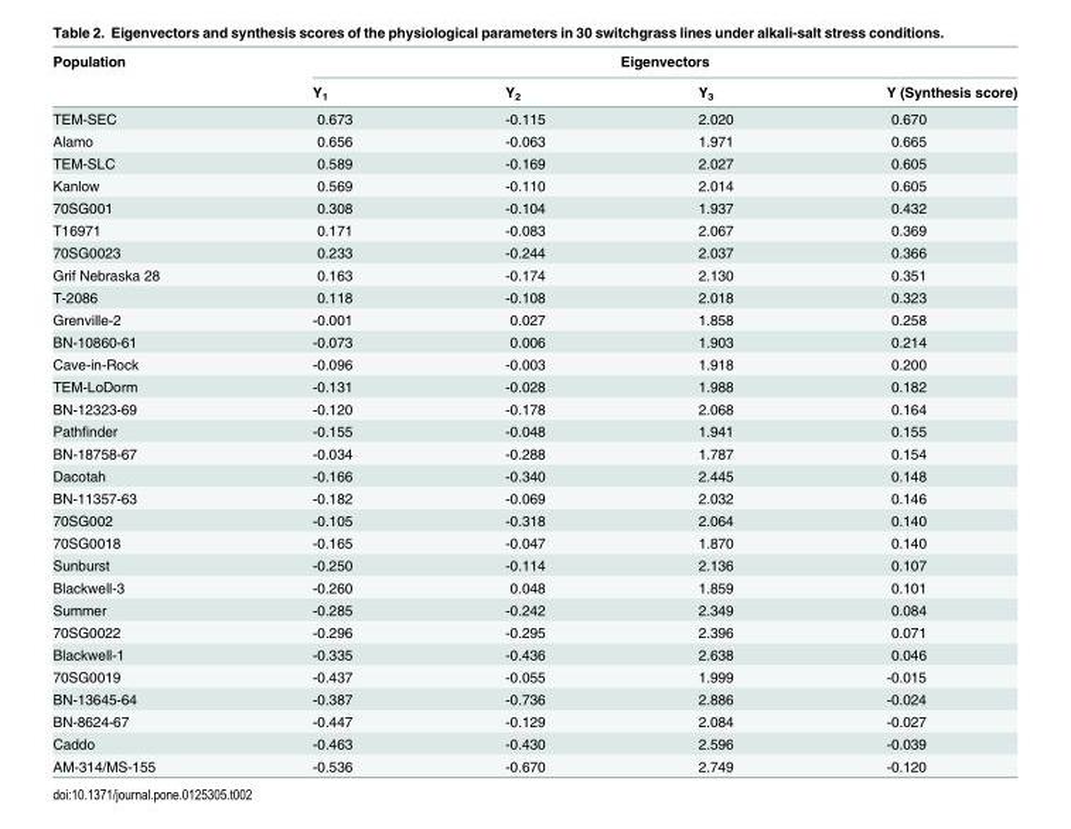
<table><thead><tr><td rowspan="2">Population</td><td colspan="4">Eigenvectors</td></tr><tr><td>Y<sub>1</sub></td><td>Y<sub>2</sub></td><td>Y<sub>3</sub></td><td>Y (Synthesis score)</td></tr></thead><tbody><tr><td>TEM-SEC</td><td>0.673</td><td>-0.115</td><td>2.020</td><td>0.670</td></tr><tr><td>Alamo</td><td>0.656</td><td>-0.063</td><td>1.971</td><td>0.665</td></tr><tr><td>TEM-SLC</td><td>0.589</td><td>-0.169</td><td>2.027</td><td>0.605</td></tr><tr><td>Kanlow</td><td>0.569</td><td>-0.110</td><td>2.014</td><td>0.605</td></tr><tr><td>70SG001</td><td>0.308</td><td>-0.104</td><td>1.937</td><td>0.432</td></tr><tr><td>T16971</td><td>0.171</td><td>-0.083</td><td>2.067</td><td>0.369</td></tr><tr><td>70SG0023</td><td>0.233</td><td>-0.244</td><td>2.037</td><td>0.366</td></tr><tr><td>Grif Nebraska 28</td><td>0.163</td><td>-0.174</td><td>2.130</td><td>0.351</td></tr><tr><td>T-2086</td><td>0.118</td><td>-0.108</td><td>2.018</td><td>0.323</td></tr><tr><td>Grenville-2</td><td>-0.001</td><td>0.027</td><td>1.858</td><td>0.258</td></tr><tr><td>BN-10860-61</td><td>-0.073</td><td>0.006</td><td>1.903</td><td>0.214</td></tr><tr><td>Cave-in-Rock</td><td>-0.096</td><td>-0.003</td><td>1.918</td><td>0.200</td></tr><tr><td>TEM-LoDorm</td><td>-0.131</td><td>-0.028</td><td>1.988</td><td>0.182</td></tr><tr><td>BN-12323-69</td><td>-0.120</td><td>-0.178</td><td>2.068</td><td>0.164</td></tr><tr><td>Pathfinder</td><td>-0.155</td><td>-0.048</td><td>1.941</td><td>0.155</td></tr><tr><td>BN-18758-67</td><td>-0.034</td><td>-0.288</td><td>1.787</td><td>0.154</td></tr><tr><td>Dacotah</td><td>-0.166</td><td>-0.340</td><td>2.445</td><td>0.148</td></tr><tr><td>BN-11357-63</td><td>-0.182</td><td>-0.069</td><td>2.032</td><td>0.146</td></tr><tr><td>70SG002</td><td>-0.105</td><td>-0.318</td><td>2.064</td><td>0.140</td></tr><tr><td>70SG0018</td><td>-0.165</td><td>-0.047</td><td>1.870</td><td>0.140</td></tr><tr><td>Sunburst</td><td>-0.250</td><td>-0.114</td><td>2.136</td><td>0.107</td></tr><tr><td>Blackwell-3</td><td>-0.260</td><td>0.048</td><td>1.859</td><td>0.101</td></tr><tr><td>Summer</td><td>-0.285</td><td>-0.242</td><td>2.349</td><td>0.084</td></tr><tr><td>70SG0022</td><td>-0.296</td><td>-0.295</td><td>2.396</td><td>0.071</td></tr><tr><td>Blackwell-1</td><td>-0.335</td><td>-0.436</td><td>2.638</td><td>0.046</td></tr><tr><td>70SG0019</td><td>-0.437</td><td>-0.055</td><td>1.999</td><td>-0.015</td></tr><tr><td>BN-13645-64</td><td>-0.387</td><td>-0.736</td><td>2.886</td><td>-0.024</td></tr><tr><td>BN-8624-67</td><td>-0.447</td><td>-0.129</td><td>2.084</td><td>-0.027</td></tr><tr><td>Caddo</td><td>-0.463</td><td>-0.430</td><td>2.596</td><td>-0.039</td></tr><tr><td>AM-314/MS-155</td><td>-0.536</td><td>-0.670</td><td>2.749</td><td>-0.120</td></tr></tbody></table>